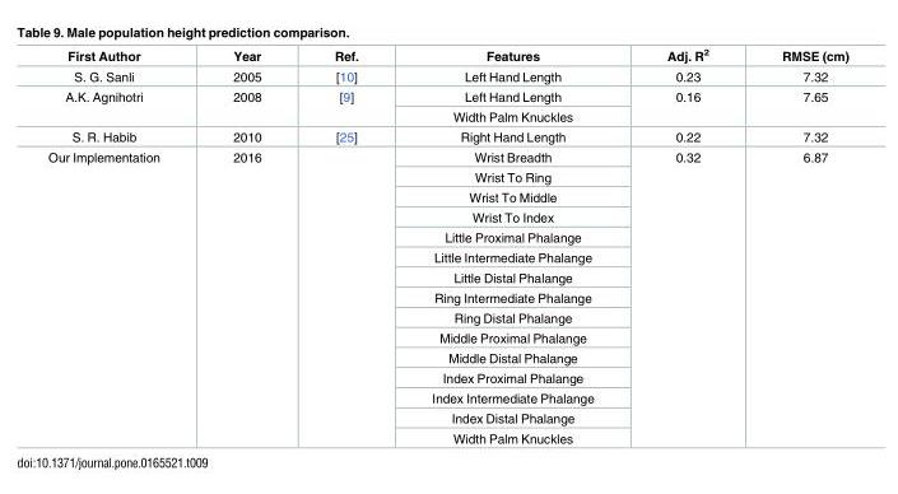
<table><thead><tr><td>First Author</td><td>Year</td><td>Ref.</td><td>Features</td><td>Adj. R<sup>2</sup></td><td>RMSE (cm)</td></tr></thead><tbody><tr><td>S. G. Sanli</td><td>2005</td><td>[10]</td><td>Left Hand Length</td><td>0.23</td><td>7.32</td></tr><tr><td rowspan="2">A.K. Agnihotri</td><td rowspan="2">2008</td><td rowspan="2">[9]</td><td>Left Hand Length</td><td rowspan="2">0.16</td><td rowspan="2">7.65</td></tr><tr><td>Width Palm Knuckles</td></tr><tr><td>S. R. Habib</td><td>2010</td><td>[25]</td><td>Right Hand Length</td><td>0.22</td><td>7.32</td></tr><tr><td rowspan="15">Our Implementation</td><td rowspan="15">2016</td><td rowspan="15"></td><td>Wrist Breadth</td><td rowspan="15">0.32</td><td rowspan="15">6.87</td></tr><tr><td>Wrist To Ring</td></tr><tr><td>Wrist To Middle</td></tr><tr><td>Wrist To Index</td></tr><tr><td>Little Proximal Phalange</td></tr><tr><td>Little Intermediate Phalange</td></tr><tr><td>Little Distal Phalange</td></tr><tr><td>Ring Intermediate Phalange</td></tr><tr><td>Ring Distal Phalange</td></tr><tr><td>Middle Proximal Phalange</td></tr><tr><td>Middle Distal Phalange</td></tr><tr><td>Index Proximal Phalange</td></tr><tr><td>Index Intermediate Phalange</td></tr><tr><td>Index Distal Phalange</td></tr><tr><td>Width Palm Knuckles</td></tr></tbody></table>